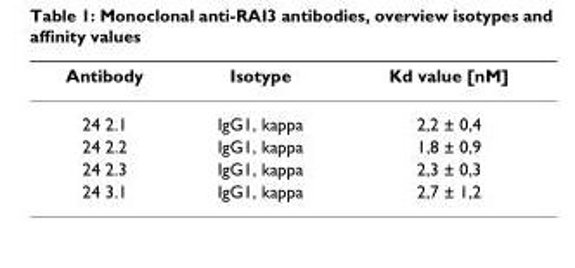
<table><thead><tr><td>Antibody</td><td>Isotype</td><td>Kd value [nM]</td></tr></thead><tbody><tr><td>24 2.1</td><td>IgG1, kappa</td><td>2,2 ± 0,4</td></tr><tr><td>24 2.2</td><td>IgG1, kappa</td><td>1,8 ± 0,9</td></tr><tr><td>24 2.3</td><td>IgG1, kappa</td><td>2,3 ± 0,3</td></tr><tr><td>24 3.1</td><td>IgG1, kappa</td><td>2,7 ± 1,2</td></tr></tbody></table>